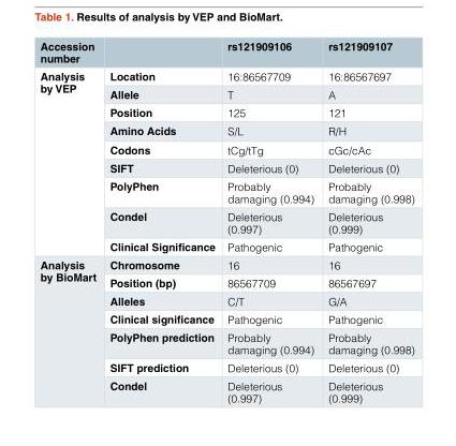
<table><thead><tr><td>Accession number</td><td></td><td>rs121909106</td><td>rs121909107</td></tr></thead><tbody><tr><td rowspan="9">Analysis by VEP</td><td>Location</td><td>16:86567709</td><td>16:86567697</td></tr><tr><td>Allele</td><td>T</td><td>A</td></tr><tr><td>Position</td><td>125</td><td>121</td></tr><tr><td>Amino Acids</td><td>S/L</td><td>R/H</td></tr><tr><td>Codons</td><td>tCg/tTg</td><td>cGc/cAc</td></tr><tr><td>SIFT</td><td>Deleterious (0)</td><td>Deleterious (0)</td></tr><tr><td>PolyPhen</td><td>Probably damaging (0.994)</td><td>Probably damaging (0.998)</td></tr><tr><td>Condel</td><td>Deleterious (0.997)</td><td>Deleterious (0.999)</td></tr><tr><td>Clinical Significance</td><td>Pathogenic</td><td>Pathogenic</td></tr><tr><td rowspan="7">Analysis by BioMart</td><td>Chromosome</td><td>16</td><td>16</td></tr><tr><td>Position (bp)</td><td>86567709</td><td>86567697</td></tr><tr><td>Alleles</td><td>C/T</td><td>G/A</td></tr><tr><td>Clinical significance</td><td>Pathogenic</td><td>Pathogenic</td></tr><tr><td>PolyPhen prediction</td><td>Probably damaging (0.994)</td><td>Probably damaging (0.998)</td></tr><tr><td>SIFT prediction</td><td>Deleterious (0)</td><td>Deleterious (0)</td></tr><tr><td>Condel</td><td>Deleterious (0.997)</td><td>Deleterious (0.999)</td></tr></tbody></table>